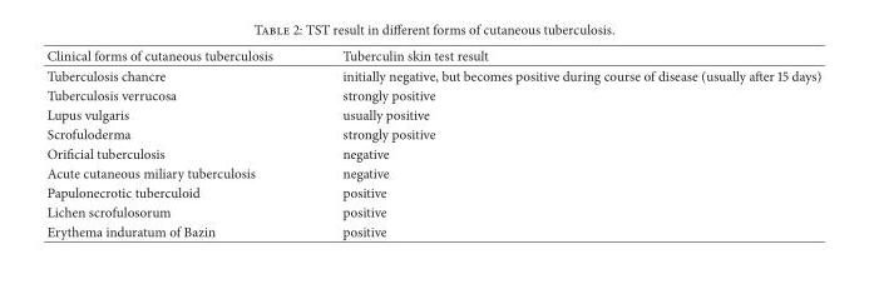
<table><thead><tr><td>Clinical forms of cutaneous tuberculosis</td><td>Tuberculin skin test result</td></tr></thead><tbody><tr><td>Tuberculosis chancre</td><td>initially negative, but becomes positive during course of disease (usually after 15 days)</td></tr><tr><td>Tuberculosis verrucosa</td><td>strongly positive</td></tr><tr><td>Lupus vulgaris</td><td>usually positive</td></tr><tr><td>Scrofuloderma</td><td>strongly positive</td></tr><tr><td>Orificial tuberculosis</td><td>negative</td></tr><tr><td>Acute cutaneous miliary tuberculosis</td><td>negative</td></tr><tr><td>Papulonecrotic tuberculoid</td><td>positive</td></tr><tr><td>Lichen scrofulosorum</td><td>positive</td></tr><tr><td>Erythema induratum of Bazin</td><td>positive</td></tr></tbody></table>